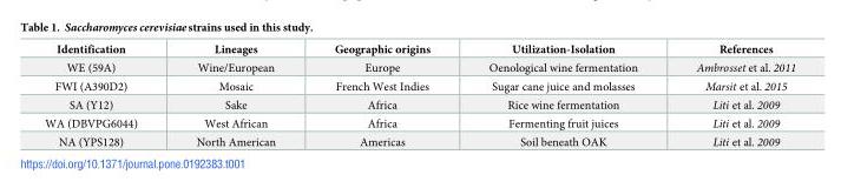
<table><thead><tr><td>Identification</td><td>Lineages</td><td>Geographic origins</td><td>Utilization-Isolation</td><td>References</td></tr></thead><tbody><tr><td>WE (59A)</td><td>Wine/European</td><td>Europe</td><td>Oenological wine fermentation</td><td>Ambrosset et al. 2011</td></tr><tr><td>FWI (A390D2)</td><td>Mosaic</td><td>French West Indies</td><td>Sugar cane juice and molasses</td><td>Marsit et al. 2015</td></tr><tr><td>SA (Y12)</td><td>Sake</td><td>Africa</td><td>Rice wine fermentation</td><td>Liti et al. 2009</td></tr><tr><td>WA (DBVPG6044)</td><td>West African</td><td>Africa</td><td>Fermenting fruit juices</td><td>Liti et al. 2009</td></tr><tr><td>NA (YPS128)</td><td>North American</td><td>Americas</td><td>Soil beneath OAK</td><td>Liti et al. 2009</td></tr></tbody></table>